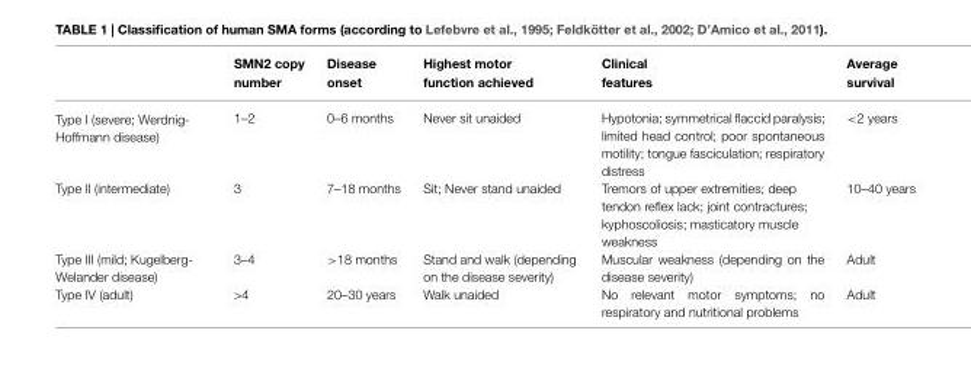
<table><thead><tr><td></td><td>SMN2 copy number</td><td>Disease onset</td><td>Highest motor function achieved</td><td>Clinical features</td><td>Average survival</td></tr></thead><tbody><tr><td>Type I (severe; Werdnig- Hoffmann disease)</td><td>1–2</td><td>0–6 months</td><td>Never sit unaided</td><td>Hypotonia; symmetrical flaccid paralysis; limited head control; poor spontaneous motility; tongue fasciculation; respiratory distress</td><td>&lt;2 years</td></tr><tr><td>Type II (intermediate)</td><td>3</td><td>7–18 months</td><td>Sit; Never stand unaided</td><td>Tremors of upper extremities; deep tendon reflex lack; joint contractures; kyphoscoliosis; masticatory muscle weakness</td><td>10–40 years</td></tr><tr><td>Type III (mild; Kugelberg- Welander disease)</td><td>3–4</td><td>&gt;18 months</td><td>Stand and walk (depending on the disease severity)</td><td>Muscular weakness (depending on the disease severity)</td><td>Adult</td></tr><tr><td>Type IV (adult)</td><td>&gt;4</td><td>20–30 years</td><td>Walk unaided</td><td>No relevant motor symptoms; no respiratory and nutritional problems</td><td>Adult</td></tr></tbody></table>